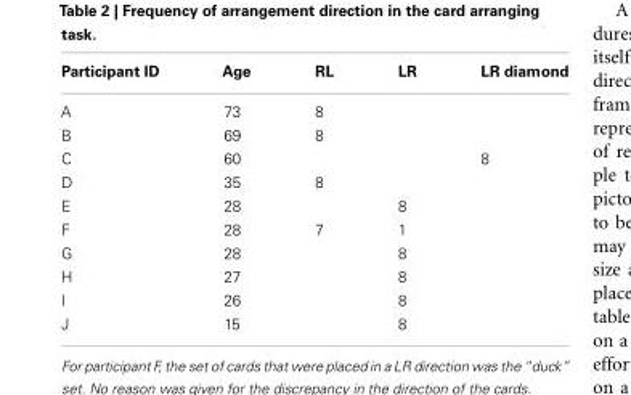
<table><thead><tr><td>Participant ID</td><td>Age</td><td>RL</td><td>LR</td><td>LR diamond</td></tr></thead><tbody><tr><td>A</td><td>73</td><td>8</td><td></td><td></td></tr><tr><td>B</td><td>69</td><td>8</td><td></td><td></td></tr><tr><td>C</td><td>60</td><td></td><td></td><td>8</td></tr><tr><td>D</td><td>35</td><td>8</td><td></td><td></td></tr><tr><td>E</td><td>28</td><td></td><td>8</td><td></td></tr><tr><td>F</td><td>28</td><td>7</td><td>1</td><td></td></tr><tr><td>G</td><td>28</td><td></td><td>8</td><td></td></tr><tr><td>H</td><td>27</td><td></td><td>8</td><td></td></tr><tr><td>I</td><td>26</td><td></td><td>8</td><td></td></tr><tr><td>J</td><td>15</td><td></td><td>8</td><td></td></tr></tbody></table>